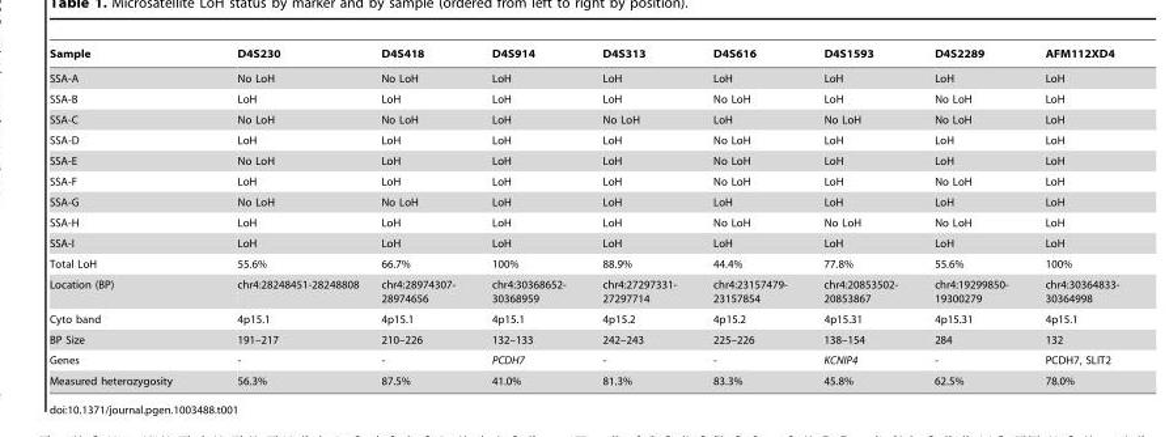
<table><thead><tr><td>Sample</td><td>D4S230</td><td>D4S418</td><td>D4S914</td><td>D4S313</td><td>D4S616</td><td>D4S1593</td><td>D4S2289</td><td>AFM112XD4</td></tr></thead><tbody><tr><td>SSA-A</td><td>No LoH</td><td>No LoH</td><td>LoH</td><td>LoH</td><td>LoH</td><td>LoH</td><td>LoH</td><td>LoH</td></tr><tr><td>SSA-B</td><td>LoH</td><td>LoH</td><td>LoH</td><td>LoH</td><td>No LoH</td><td>LoH</td><td>No LoH</td><td>LoH</td></tr><tr><td>SSA-C</td><td>No LoH</td><td>No LoH</td><td>LoH</td><td>No LoH</td><td>LoH</td><td>No LoH</td><td>No LoH</td><td>LoH</td></tr><tr><td>SSA-D</td><td>LoH</td><td>LoH</td><td>LoH</td><td>LoH</td><td>No LoH</td><td>LoH</td><td>LoH</td><td>LoH</td></tr><tr><td>SSA-E</td><td>No LoH</td><td>LoH</td><td>LoH</td><td>LoH</td><td>No LoH</td><td>LoH</td><td>LoH</td><td>LoH</td></tr><tr><td>SSA-F</td><td>LoH</td><td>LoH</td><td>LoH</td><td>LoH</td><td>No LoH</td><td>LoH</td><td>No LoH</td><td>LoH</td></tr><tr><td>SSA-G</td><td>No LoH</td><td>No LoH</td><td>LoH</td><td>LoH</td><td>LoH</td><td>LoH</td><td>LoH</td><td>LoH</td></tr><tr><td>SSA-H</td><td>LoH</td><td>LoH</td><td>LoH</td><td>LoH</td><td>No LoH</td><td>No LoH</td><td>No LoH</td><td>LoH</td></tr><tr><td>SSA-I</td><td>LoH</td><td>LoH</td><td>LoH</td><td>LoH</td><td>LoH</td><td>LoH</td><td>LoH</td><td>LoH</td></tr><tr><td>Total LoH</td><td>55.6%</td><td>66.7%</td><td>100%</td><td>88.9%</td><td>44.4%</td><td>77.8%</td><td>55.6%</td><td>100%</td></tr><tr><td>Location (BP)</td><td>chr4:28248451-28248808</td><td>chr4:28974307- 28974656</td><td>chr4:30368652- 30368959</td><td>chr4:27297331- 27297714</td><td>chr4:23157479- 23157854</td><td>chr4:20853502- 20853867</td><td>chr4:19299850- 19300279</td><td>chr4:30364833- 30364998</td></tr><tr><td>Cyto band</td><td>4p15.1</td><td>4p15.1</td><td>4p15.1</td><td>4p15.2</td><td>4p15.2</td><td>4p15.31</td><td>4p15.31</td><td>4p15.1</td></tr><tr><td>BP Size</td><td>191–217</td><td>210–226</td><td>132–133</td><td>242–243</td><td>225–226</td><td>138–154</td><td>284</td><td>132</td></tr><tr><td>Genes</td><td>-</td><td>-</td><td>PCDH7</td><td>-</td><td>-</td><td>KCNIP4</td><td>-</td><td>PCDH7, SLIT2</td></tr><tr><td>Measured heterozygosity</td><td>56.3%</td><td>87.5%</td><td>41.0%</td><td>81.3%</td><td>83.3%</td><td>45.8%</td><td>62.5%</td><td>78.0%</td></tr></tbody></table>